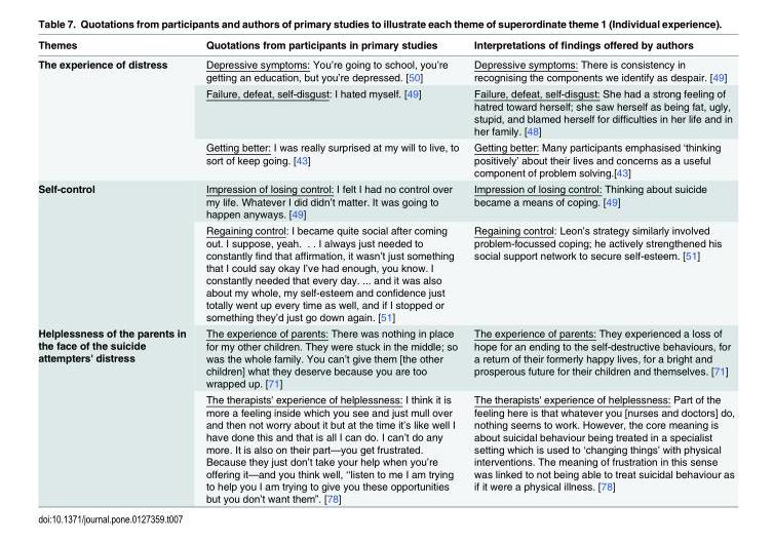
<table><thead><tr><td>Themes</td><td>Quotations from participants in primary studies</td><td>Interpretations of findings offered by authors</td></tr></thead><tbody><tr><td rowspan="3">The experience of distress</td><td>Depressive symptoms: You’re going to school, you’re getting an education, but you’re depressed. [50]</td><td>Depressive symptoms: There is consistency in recognising the components we identify as despair. [49]</td></tr><tr><td>Failure, defeat, self-disgust: I hated myself. [49]</td><td>Failure, defeat, self-disgust: She had a strong feeling of hatred toward herself; she saw herself as being fat, ugly, stupid, and blamed herself for difficulties in her life and in her family. [48]</td></tr><tr><td>Getting better: I was really surprised at my will to live, to sort of keep going. [43]</td><td>Getting better: Many participants emphasised ‘thinking positively’ about their lives and concerns as a useful component of problem solving.[43]</td></tr><tr><td rowspan="2">Self-control</td><td>Impression of losing control: I felt I had no control over my life. Whatever I did didn’t matter. It was going to happen anyways. [49]</td><td>Impression of losing control: Thinking about suicide became a means of coping. [49]</td></tr><tr><td>Regaining control: I became quite social after coming out. I suppose, yeah. . . I always just needed to constantly find that affirmation, it wasn’t just something that I could say okay I’ve had enough, you know. I constantly needed that every day. ... and it was also about my whole, my self-esteem and confidence just totally went up every time as well, and if I stopped or something they’d just go down again. [51]</td><td>Regaining control: Leon’s strategy similarly involved problem-focussed coping; he actively strengthened his social support network to secure self-esteem. [51]</td></tr><tr><td rowspan="2">Helplessness of the parents in the face of the suicide attempters&#x27; distress</td><td>The experience of parents: There was nothing in place for my other children. They were stuck in the middle; so was the whole family. You can’t give them [the other children] what they deserve because you are too wrapped up. [71]</td><td>The experience of parents: They experienced a loss of hope for an ending to the self-destructive behaviours, for a return of their formerly happy lives, for a bright and prosperous future for their children and themselves. [71]</td></tr><tr><td>The therapists&#x27; experience of helplessness: I think it is more a feeling inside which you see and just mull over and then not worry about it but at the time it’s like well I have done this and that is all I can do. I can’t do any more. It is also on their part—you get frustrated. Because they just don’t take your help when you’re offering it—and you think well, ‘‘listen to me I am trying to help you I am trying to give you these opportunities but you don’t want them”. [78]</td><td>The therapists&#x27; experience of helplessness: Part of the feeling here is that whatever you [nurses and doctors] do, nothing seems to work. However, the core meaning is about suicidal behaviour being treated in a specialist setting which is used to ‘changing things’ with physical interventions. The meaning of frustration in this sense was linked to not being able to treat suicidal behaviour as if it were a physical illness. [78]</td></tr></tbody></table>